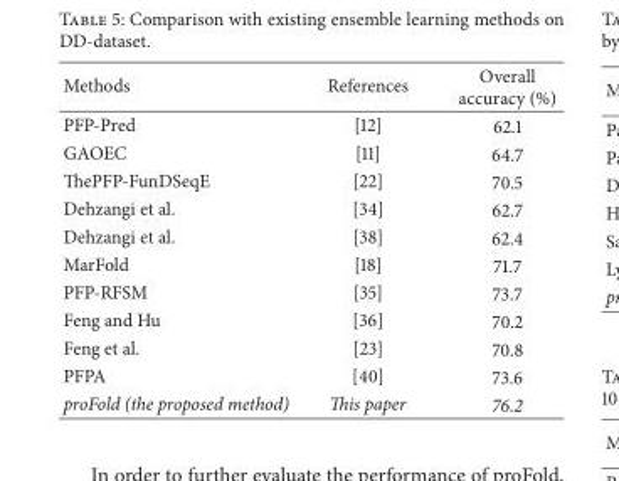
<table><thead><tr><td>Methods</td><td>References</td><td>Overall accuracy (%)</td></tr></thead><tbody><tr><td>PFP-Pred</td><td>[12]</td><td>62.1</td></tr><tr><td>GAOEC</td><td>[11]</td><td>64.7</td></tr><tr><td>ThePFP-FunDSeqE</td><td>[22]</td><td>70.5</td></tr><tr><td>Dehzangi et al.</td><td>[34]</td><td>62.7</td></tr><tr><td>Dehzangi et al.</td><td>[38]</td><td>62.4</td></tr><tr><td>MarFold</td><td>[18]</td><td>71.7</td></tr><tr><td>PFP-RFSM</td><td>[35]</td><td>73.7</td></tr><tr><td>Feng and Hu</td><td>[36]</td><td>70.2</td></tr><tr><td>Feng et al.</td><td>[23]</td><td>70.8</td></tr><tr><td>PFPA</td><td>[40]</td><td>73.6</td></tr><tr><td>proFold (the proposed method)</td><td>This paper</td><td>76.2</td></tr></tbody></table>